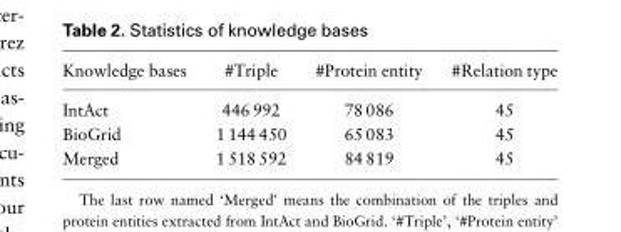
<table><thead><tr><td>Knowledge bases</td><td>#Triple</td><td>#Protein entity</td><td>#Relation type</td></tr></thead><tbody><tr><td>IntAct</td><td>446 992</td><td>78 086</td><td>45</td></tr><tr><td>BioGrid</td><td>1 144 450</td><td>65 083</td><td>45</td></tr><tr><td>Merged</td><td>1 518 592</td><td>84 819</td><td>45</td></tr></tbody></table>